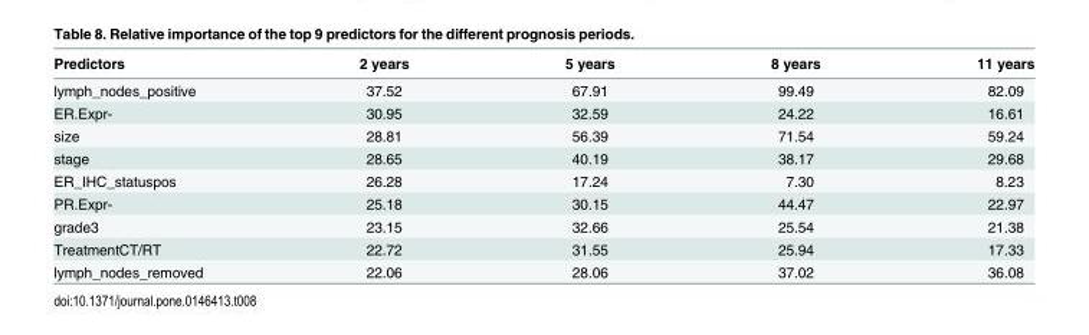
<table><thead><tr><td>Predictors</td><td>2 years</td><td>5 years</td><td>8 years</td><td>11 years</td></tr></thead><tbody><tr><td>lymph_nodes_positive</td><td>37.52</td><td>67.91</td><td>99.49</td><td>82.09</td></tr><tr><td>ER.Expr-</td><td>30.95</td><td>32.59</td><td>24.22</td><td>16.61</td></tr><tr><td>size</td><td>28.81</td><td>56.39</td><td>71.54</td><td>59.24</td></tr><tr><td>stage</td><td>28.65</td><td>40.19</td><td>38.17</td><td>29.68</td></tr><tr><td>ER_IHC_statuspos</td><td>26.28</td><td>17.24</td><td>7.30</td><td>8.23</td></tr><tr><td>PR.Expr-</td><td>25.18</td><td>30.15</td><td>44.47</td><td>22.97</td></tr><tr><td>grade3</td><td>23.15</td><td>32.66</td><td>25.54</td><td>21.38</td></tr><tr><td>TreatmentCT/RT</td><td>22.72</td><td>31.55</td><td>25.94</td><td>17.33</td></tr><tr><td>lymph_nodes_removed</td><td>22.06</td><td>28.06</td><td>37.02</td><td>36.08</td></tr></tbody></table>